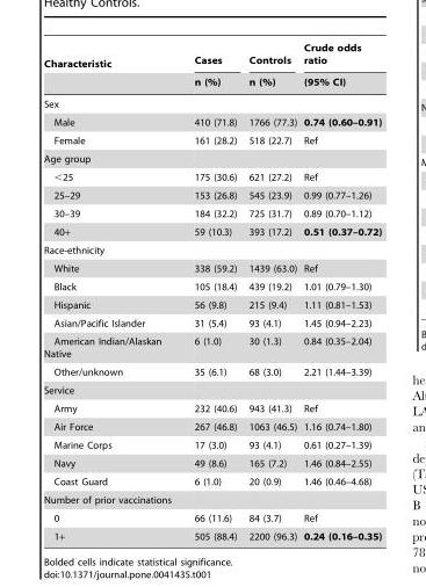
<table><thead><tr><td rowspan="2">Characteristic</td><td rowspan="2">Cases n (%)</td><td rowspan="2">Controls n (%)</td><td rowspan="2">Crude odds ratio (95% CI)</td></tr><tr></tr></thead><tbody><tr><td colspan="4">Sex</td></tr><tr><td>Male</td><td>410 (71.8)</td><td>1766 (77.3)</td><td>0.74 (0.60–0.91)</td></tr><tr><td>Female</td><td>161 (28.2)</td><td>518 (22.7)</td><td>Ref</td></tr><tr><td colspan="4">Age group</td></tr><tr><td>&lt;25</td><td>175 (30.6)</td><td>621 (27.2)</td><td>Ref</td></tr><tr><td>25–29</td><td>153 (26.8)</td><td>545 (23.9)</td><td>0.99 (0.77–1.26)</td></tr><tr><td>30–39</td><td>184 (32.2)</td><td>725 (31.7)</td><td>0.89 (0.70–1.12)</td></tr><tr><td>40+</td><td>59 (10.3)</td><td>393 (17.2)</td><td>0.51 (0.37–0.72)</td></tr><tr><td colspan="4">Race-ethnicity</td></tr><tr><td>White</td><td>338 (59.2)</td><td>1439 (63.0)</td><td>Ref</td></tr><tr><td>Black</td><td>105 (18.4)</td><td>439 (19.2)</td><td>1.01 (0.79–1.30)</td></tr><tr><td>Hispanic</td><td>56 (9.8)</td><td>215 (9.4)</td><td>1.11 (0.81–1.53)</td></tr><tr><td>Asian/Pacific Islander</td><td>31 (5.4)</td><td>93 (4.1)</td><td>1.45 (0.94–2.23)</td></tr><tr><td>American Indian/Alaskan Native</td><td>6 (1.0)</td><td>30 (1.3)</td><td>0.84 (0.35–2.04)</td></tr><tr><td>Other/unknown</td><td>35 (6.1)</td><td>68 (3.0)</td><td>2.21 (1.44–3.39)</td></tr><tr><td colspan="4">Service</td></tr><tr><td>Army</td><td>232 (40.6)</td><td>943 (41.3)</td><td>Ref</td></tr><tr><td>Air Force</td><td>267 (46.8)</td><td>1063 (46.5)</td><td>1.16 (0.74–1.80)</td></tr><tr><td>Marine Corps</td><td>17 (3.0)</td><td>93 (4.1)</td><td>0.61 (0.27–1.39)</td></tr><tr><td>Navy</td><td>49 (8.6)</td><td>165 (7.2)</td><td>1.46 (0.84–2.55)</td></tr><tr><td>Coast Guard</td><td>6 (1.0)</td><td>20 (0.9)</td><td>1.46 (0.46–4.68)</td></tr><tr><td colspan="4">Number of prior vaccinations</td></tr><tr><td>0</td><td>66 (11.6)</td><td>84 (3.7)</td><td>Ref</td></tr><tr><td>1+</td><td>505 (88.4)</td><td>2200 (96.3)</td><td>0.24 (0.16–0.35)</td></tr></tbody></table>